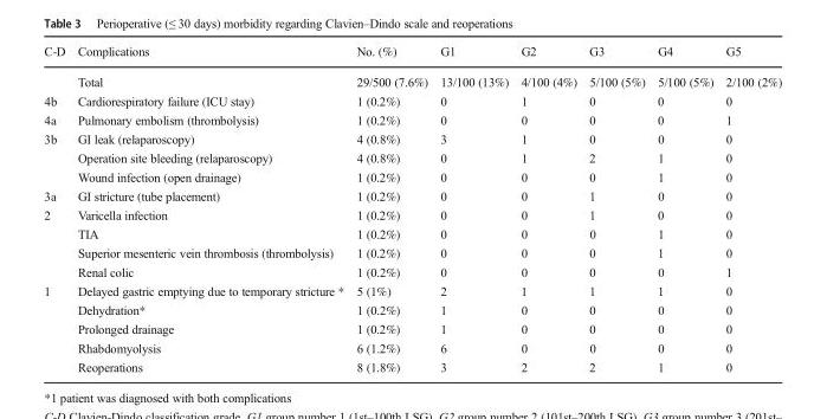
<table><thead><tr><td>C-D</td><td>Complications</td><td>No. (%)</td><td>G1</td><td>G2</td><td>G3</td><td>G4</td><td>G5</td></tr></thead><tbody><tr><td></td><td>Total</td><td>29/500 (7.6%)</td><td>13/100 (13%)</td><td>4/100 (4%)</td><td>5/100 (5%)</td><td>5/100 (5%)</td><td>2/100 (2%)</td></tr><tr><td>4b</td><td>Cardiorespiratory failure (ICU stay)</td><td>1 (0.2%)</td><td>0</td><td>1</td><td>0</td><td>0</td><td>0</td></tr><tr><td>4a</td><td>Pulmonary embolism (thrombolysis)</td><td>1 (0.2%)</td><td>0</td><td>0</td><td>0</td><td>0</td><td>1</td></tr><tr><td rowspan="3">3b</td><td>GI leak (relaparoscopy)</td><td>4 (0.8%)</td><td>3</td><td>1</td><td>0</td><td>0</td><td>0</td></tr><tr><td>Operation site bleeding (relaparoscopy)</td><td>4 (0.8%)</td><td>0</td><td>1</td><td>2</td><td>1</td><td>0</td></tr><tr><td>Wound infection (open drainage)</td><td>1 (0.2%)</td><td>0</td><td>0</td><td>0</td><td>1</td><td>0</td></tr><tr><td>3a</td><td>GI stricture (tube placement)</td><td>1 (0.2%)</td><td>0</td><td>0</td><td>1</td><td>0</td><td>0</td></tr><tr><td rowspan="4">2</td><td>Varicella infection</td><td>1 (0.2%)</td><td>0</td><td>0</td><td>1</td><td>0</td><td>0</td></tr><tr><td>TIA</td><td>1 (0.2%)</td><td>0</td><td>0</td><td>0</td><td>1</td><td>0</td></tr><tr><td>Superior mesenteric vein thrombosis (thrombolysis)</td><td>1 (0.2%)</td><td>0</td><td>0</td><td>0</td><td>1</td><td>0</td></tr><tr><td>Renal colic</td><td>1 (0.2%)</td><td>0</td><td>0</td><td>0</td><td>0</td><td>1</td></tr><tr><td rowspan="5">1</td><td>Delayed gastric emptying due to temporary stricture *</td><td>5 (1%)</td><td>2</td><td>1</td><td>1</td><td>1</td><td>0</td></tr><tr><td>Dehydration*</td><td>1 (0.2%)</td><td>1</td><td>0</td><td>0</td><td>0</td><td>0</td></tr><tr><td>Prolonged drainage</td><td>1 (0.2%)</td><td>1</td><td>0</td><td>0</td><td>0</td><td>0</td></tr><tr><td>Rhabdomyolysis</td><td>6 (1.2%)</td><td>6</td><td>0</td><td>0</td><td>0</td><td>0</td></tr><tr><td>Reoperations</td><td>8 (1.8%)</td><td>3</td><td>2</td><td>2</td><td>1</td><td>0</td></tr></tbody></table>